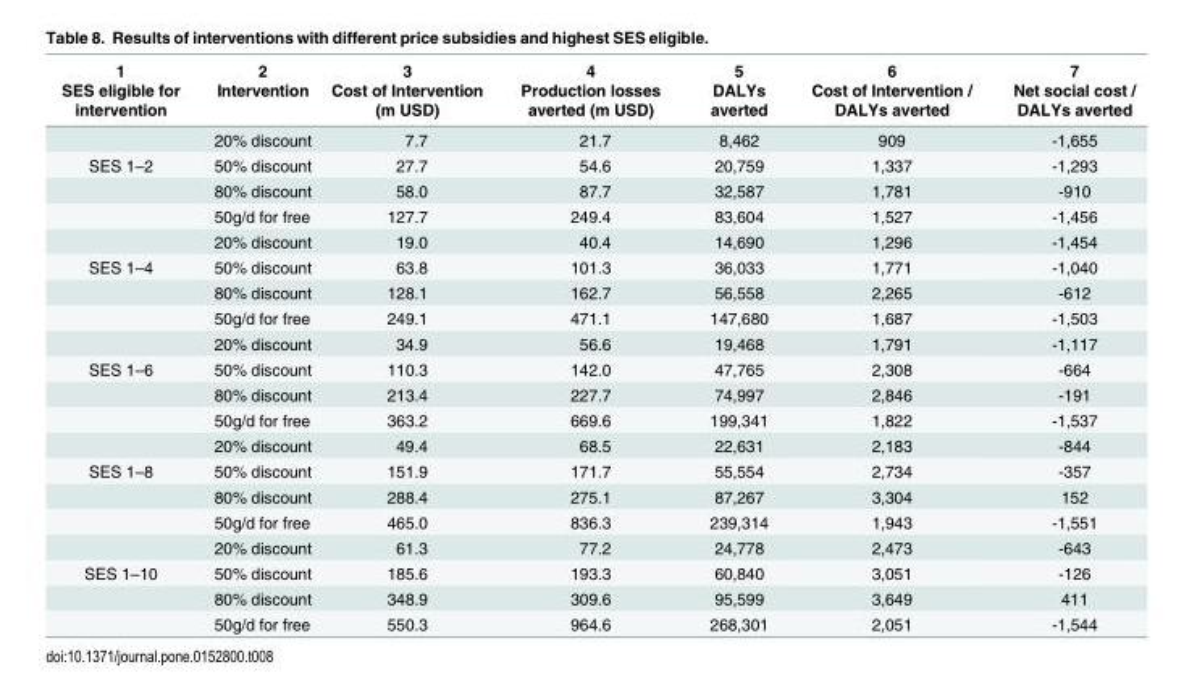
<table><thead><tr><td rowspan="2">1 SES eligible for intervention</td><td rowspan="2">2 Intervention</td><td rowspan="2">3 Cost of Intervention (m USD)</td><td rowspan="2">4 Production losses averted (m USD)</td><td rowspan="2">5 DALYs averted</td><td rowspan="2">6 Cost of Intervention / DALYs averted</td><td rowspan="2">7 Net social cost / DALYs averted</td></tr><tr></tr></thead><tbody><tr><td></td><td>20% discount</td><td>7.7</td><td>21.7</td><td>8,462</td><td>909</td><td>-1,655</td></tr><tr><td rowspan="4">SES 1–2</td><td>50% discount</td><td>27.7</td><td>54.6</td><td>20,759</td><td>1,337</td><td>-1,293</td></tr><tr><td>80% discount</td><td>58.0</td><td>87.7</td><td>32,587</td><td>1,781</td><td>-910</td></tr><tr><td>50g/d for free</td><td>127.7</td><td>249.4</td><td>83,604</td><td>1,527</td><td>-1,456</td></tr><tr><td>20% discount</td><td>19.0</td><td>40.4</td><td>14,690</td><td>1,296</td><td>-1,454</td></tr><tr><td rowspan="4">SES 1–4</td><td>50% discount</td><td>63.8</td><td>101.3</td><td>36,033</td><td>1,771</td><td>-1,040</td></tr><tr><td>80% discount</td><td>128.1</td><td>162.7</td><td>56,558</td><td>2,265</td><td>-612</td></tr><tr><td>50g/d for free</td><td>249.1</td><td>471.1</td><td>147,680</td><td>1,687</td><td>-1,503</td></tr><tr><td>20% discount</td><td>34.9</td><td>56.6</td><td>19,468</td><td>1,791</td><td>-1,117</td></tr><tr><td rowspan="4">SES 1–6</td><td>50% discount</td><td>110.3</td><td>142.0</td><td>47,765</td><td>2,308</td><td>-664</td></tr><tr><td>80% discount</td><td>213.4</td><td>227.7</td><td>74,997</td><td>2,846</td><td>-191</td></tr><tr><td>50g/d for free</td><td>363.2</td><td>669.6</td><td>199,341</td><td>1,822</td><td>-1,537</td></tr><tr><td>20% discount</td><td>49.4</td><td>68.5</td><td>22,631</td><td>2,183</td><td>-844</td></tr><tr><td rowspan="4">SES 1–8</td><td>50% discount</td><td>151.9</td><td>171.7</td><td>55,554</td><td>2,734</td><td>-357</td></tr><tr><td>80% discount</td><td>288.4</td><td>275.1</td><td>87,267</td><td>3,304</td><td>152</td></tr><tr><td>50g/d for free</td><td>465.0</td><td>836.3</td><td>239,314</td><td>1,943</td><td>-1,551</td></tr><tr><td>20% discount</td><td>61.3</td><td>77.2</td><td>24,778</td><td>2,473</td><td>-643</td></tr><tr><td rowspan="3">SES 1–10</td><td>50% discount</td><td>185.6</td><td>193.3</td><td>60,840</td><td>3,051</td><td>-126</td></tr><tr><td>80% discount</td><td>348.9</td><td>309.6</td><td>95,599</td><td>3,649</td><td>411</td></tr><tr><td>50g/d for free</td><td>550.3</td><td>964.6</td><td>268,301</td><td>2,051</td><td>-1,544</td></tr></tbody></table>